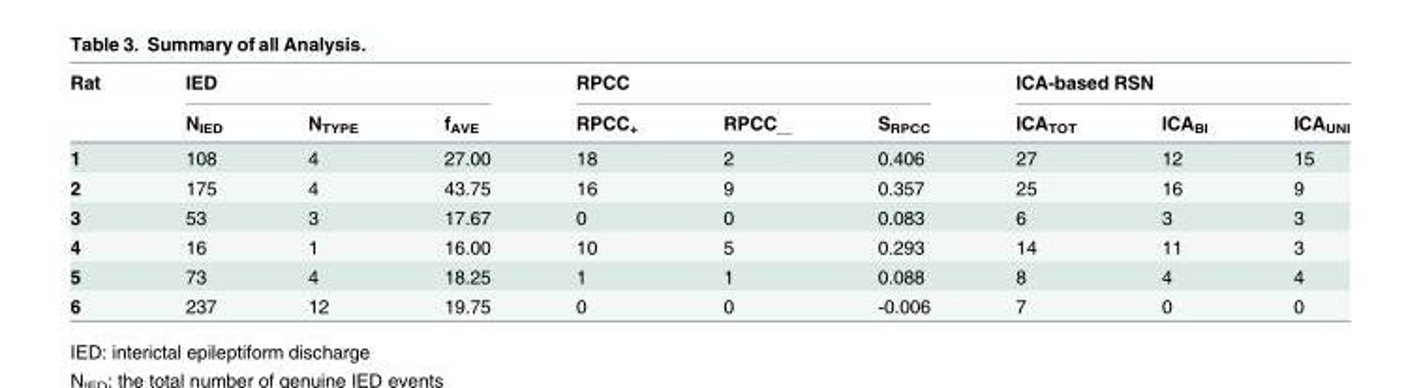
<table><thead><tr><td rowspan="2">Rat</td><td colspan="3">IED</td><td colspan="3">RPCC</td><td colspan="3">ICA-based RSN</td></tr><tr><td>N<sub>IED</sub></td><td>N<sub>TYPE</sub></td><td>f<sub>AVE</sub></td><td>RPCC<sub>+</sub></td><td>RPCC__</td><td>S<sub>RPCC</sub></td><td>ICA<sub>TOT</sub></td><td>ICA<sub>BI</sub></td><td>ICA<sub>UNI</sub></td></tr></thead><tbody><tr><td>1</td><td>108</td><td>4</td><td>27.00</td><td>18</td><td>2</td><td>0.406</td><td>27</td><td>12</td><td>15</td></tr><tr><td>2</td><td>175</td><td>4</td><td>43.75</td><td>16</td><td>9</td><td>0.357</td><td>25</td><td>16</td><td>9</td></tr><tr><td>3</td><td>53</td><td>3</td><td>17.67</td><td>0</td><td>0</td><td>0.083</td><td>6</td><td>3</td><td>3</td></tr><tr><td>4</td><td>16</td><td>1</td><td>16.00</td><td>10</td><td>5</td><td>0.293</td><td>14</td><td>11</td><td>3</td></tr><tr><td>5</td><td>73</td><td>4</td><td>18.25</td><td>1</td><td>1</td><td>0.088</td><td>8</td><td>4</td><td>4</td></tr><tr><td>6</td><td>237</td><td>12</td><td>19.75</td><td>0</td><td>0</td><td>-0.006</td><td>7</td><td>0</td><td>0</td></tr></tbody></table>